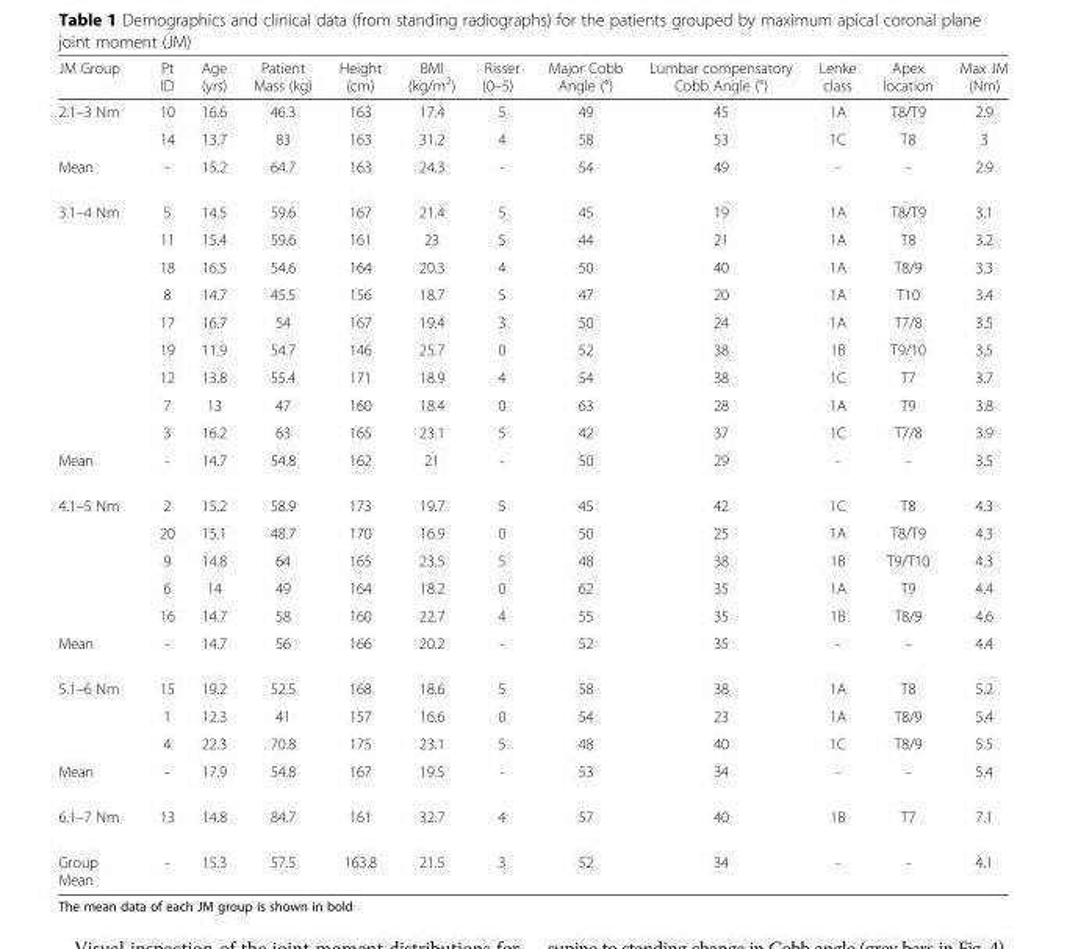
<table><thead><tr><td>JM Group</td><td>Pt ID</td><td>Age (yrs)</td><td>Patient Mass (kg)</td><td>Height (cm)</td><td>BMI (kg/m<sup>2</sup>)</td><td>Risser (0–5)</td><td>Major Cobb Angle (°)</td><td>Lumbar compensatory Cobb Angle (°)</td><td>Lenke class</td><td>Apex location</td><td>Max JM (Nm)</td></tr></thead><tbody><tr><td rowspan="2">2.1–3 Nm</td><td>10</td><td>16.6</td><td>46.3</td><td>163</td><td>17.4</td><td>5</td><td>49</td><td>45</td><td>1A</td><td>T8/T9</td><td>2.9</td></tr><tr><td>14</td><td>13.7</td><td>83</td><td>163</td><td>31.2</td><td>4</td><td>58</td><td>53</td><td>1C</td><td>T8</td><td>3</td></tr><tr><td>Mean</td><td>-</td><td>15.2</td><td>64.7</td><td>163</td><td>24.3</td><td>-</td><td>54</td><td>49</td><td>-</td><td>-</td><td>2.9</td></tr><tr><td rowspan="9">3.1–4 Nm</td><td>5</td><td>14.5</td><td>59.6</td><td>167</td><td>21.4</td><td>5</td><td>45</td><td>19</td><td>1A</td><td>T8/T9</td><td>3.1</td></tr><tr><td>11</td><td>15.4</td><td>59.6</td><td>161</td><td>23</td><td>5</td><td>44</td><td>21</td><td>1A</td><td>T8</td><td>3.2</td></tr><tr><td>18</td><td>16.5</td><td>54.6</td><td>164</td><td>20.3</td><td>4</td><td>50</td><td>40</td><td>1A</td><td>T8/9</td><td>3.3</td></tr><tr><td>8</td><td>14.7</td><td>45.5</td><td>156</td><td>18.7</td><td>5</td><td>47</td><td>20</td><td>1A</td><td>T10</td><td>3.4</td></tr><tr><td>17</td><td>16.7</td><td>54</td><td>167</td><td>19.4</td><td>3</td><td>50</td><td>24</td><td>1A</td><td>T7/8</td><td>3.5</td></tr><tr><td>19</td><td>11.9</td><td>54.7</td><td>146</td><td>25.7</td><td>0</td><td>52</td><td>38</td><td>1B</td><td>T9/10</td><td>3.5</td></tr><tr><td>12</td><td>13.8</td><td>55.4</td><td>171</td><td>18.9</td><td>4</td><td>54</td><td>38</td><td>1C</td><td>T7</td><td>3.7</td></tr><tr><td>7</td><td>13</td><td>47</td><td>160</td><td>18.4</td><td>0</td><td>63</td><td>28</td><td>1A</td><td>T9</td><td>3.8</td></tr><tr><td>3</td><td>16.2</td><td>63</td><td>165</td><td>23.1</td><td>5</td><td>42</td><td>37</td><td>1C</td><td>T7/8</td><td>3.9</td></tr><tr><td>Mean</td><td>-</td><td>14.7</td><td>54.8</td><td>162</td><td>21</td><td>-</td><td>50</td><td>29</td><td>-</td><td>-</td><td>3.5</td></tr><tr><td rowspan="5">4.1–5 Nm</td><td>2</td><td>15.2</td><td>58.9</td><td>173</td><td>19.7</td><td>5</td><td>45</td><td>42</td><td>1C</td><td>T8</td><td>4.3</td></tr><tr><td>20</td><td>15.1</td><td>48.7</td><td>170</td><td>16.9</td><td>0</td><td>50</td><td>25</td><td>1A</td><td>T8/T9</td><td>4.3</td></tr><tr><td>9</td><td>14.8</td><td>64</td><td>165</td><td>23.5</td><td>5</td><td>48</td><td>38</td><td>1B</td><td>T9/T10</td><td>4.3</td></tr><tr><td>6</td><td>14</td><td>49</td><td>164</td><td>18.2</td><td>0</td><td>62</td><td>35</td><td>1A</td><td>T9</td><td>4.4</td></tr><tr><td>16</td><td>14.7</td><td>58</td><td>160</td><td>22.7</td><td>4</td><td>55</td><td>35</td><td>1B</td><td>T8/9</td><td>4.6</td></tr><tr><td>Mean</td><td>-</td><td>14.7</td><td>56</td><td>166</td><td>20.2</td><td>-</td><td>52</td><td>35</td><td>-</td><td>-</td><td>4.4</td></tr><tr><td rowspan="3">5.1–6 Nm</td><td>15</td><td>19.2</td><td>52.5</td><td>168</td><td>18.6</td><td>5</td><td>58</td><td>38</td><td>1A</td><td>T8</td><td>5.2</td></tr><tr><td>1</td><td>12.3</td><td>41</td><td>157</td><td>16.6</td><td>0</td><td>54</td><td>23</td><td>1A</td><td>T8/9</td><td>5.4</td></tr><tr><td>4</td><td>22.3</td><td>70.8</td><td>175</td><td>23.1</td><td>5</td><td>48</td><td>40</td><td>1C</td><td>T8/9</td><td>5.5</td></tr><tr><td>Mean</td><td>-</td><td>17.9</td><td>54.8</td><td>167</td><td>19.5</td><td>-</td><td>53</td><td>34</td><td>-</td><td>-</td><td>5.4</td></tr><tr><td>6.1–7 Nm</td><td>13</td><td>14.8</td><td>84.7</td><td>161</td><td>32.7</td><td>4</td><td>57</td><td>40</td><td>1B</td><td>T7</td><td>7.1</td></tr><tr><td>Group Mean</td><td>-</td><td>15.3</td><td>57.5</td><td>163.8</td><td>21.5</td><td>3</td><td>52</td><td>34</td><td>-</td><td>-</td><td>4.1</td></tr></tbody></table>